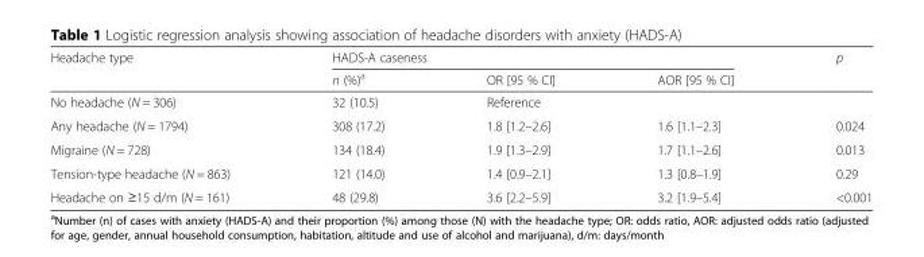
<table><thead><tr><td rowspan="2">Headache type</td><td colspan="3">HADS-A caseness</td><td rowspan="2">p</td></tr><tr><td>n (%)<sup>a</sup></td><td>OR [95 % CI]</td><td>AOR [95 % CI]</td></tr></thead><tbody><tr><td>No headache (N = 306)</td><td>32 (10.5)</td><td colspan="3">Reference</td></tr><tr><td>Any headache (N = 1794)</td><td>308 (17.2)</td><td>1.8 [1.2–2.6]</td><td>1.6 [1.1–2.3]</td><td>0.024</td></tr><tr><td>Migraine (N = 728)</td><td>134 (18.4)</td><td>1.9 [1.3–2.9]</td><td>1.7 [1.1–2.6]</td><td>0.013</td></tr><tr><td>Tension-type headache (N = 863)</td><td>121 (14.0)</td><td>1.4 [0.9–2.1]</td><td>1.3 [0.8–1.9]</td><td>0.29</td></tr><tr><td>Headache on ≥15 d/m (N = 161)</td><td>48 (29.8)</td><td>3.6 [2.2–5.9]</td><td>3.2 [1.9–5.4]</td><td>&lt;0.001</td></tr></tbody></table>